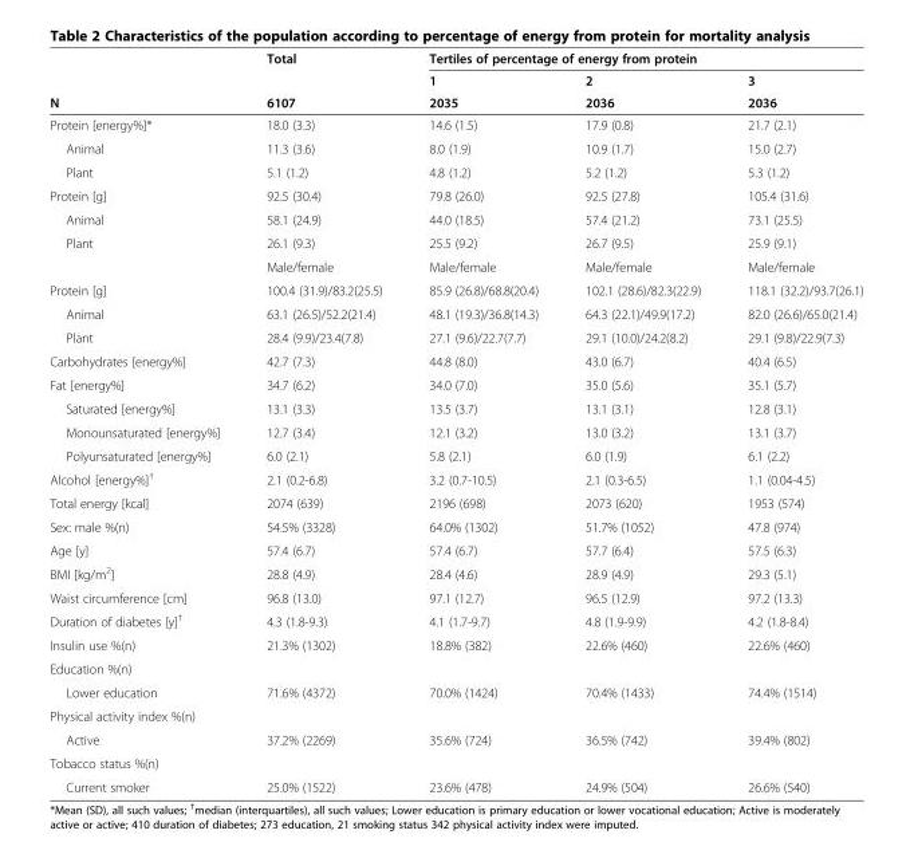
<table><thead><tr><td rowspan="3">N</td><td rowspan="3">Total 6107</td><td colspan="3">Tertiles of percentage of energy from protein</td></tr><tr><td rowspan="2">1 2035</td><td rowspan="2">2 2036</td><td rowspan="2">3 2036</td></tr><tr></tr></thead><tbody><tr><td>Protein [energy%]*</td><td>18.0 (3.3)</td><td>14.6 (1.5)</td><td>17.9 (0.8)</td><td>21.7 (2.1)</td></tr><tr><td>Animal</td><td>11.3 (3.6)</td><td>8.0 (1.9)</td><td>10.9 (1.7)</td><td>15.0 (2.7)</td></tr><tr><td>Plant</td><td>5.1 (1.2)</td><td>4.8 (1.2)</td><td>5.2 (1.2)</td><td>5.3 (1.2)</td></tr><tr><td>Protein [g]</td><td>92.5 (30.4)</td><td>79.8 (26.0)</td><td>92.5 (27.8)</td><td>105.4 (31.6)</td></tr><tr><td>Animal</td><td>58.1 (24.9)</td><td>44.0 (18.5)</td><td>57.4 (21.2)</td><td>73.1 (25.5)</td></tr><tr><td rowspan="2">Plant</td><td>26.1 (9.3)</td><td>25.5 (9.2)</td><td>26.7 (9.5)</td><td>25.9 (9.1)</td></tr><tr><td>Male/female</td><td>Male/female</td><td>Male/female</td><td>Male/female</td></tr><tr><td>Protein [g]</td><td>100.4 (31.9)/83.2(25.5)</td><td>85.9 (26.8)/68.8(20.4)</td><td>102.1 (28.6)/82.3(22.9)</td><td>118.1 (32.2)/93.7(26.1)</td></tr><tr><td>Animal</td><td>63.1 (26.5)/52.2(21.4)</td><td>48.1 (19.3)/36.8(14.3)</td><td>64.3 (22.1)/49.9(17.2)</td><td>82.0 (26.6)/65.0(21.4)</td></tr><tr><td>Plant</td><td>28.4 (9.9)/23.4(7.8)</td><td>27.1 (9.6)/22.7(7.7)</td><td>29.1 (10.0)/24.2(8.2)</td><td>29.1 (9.8)/22.9(7.3)</td></tr><tr><td>Carbohydrates [energy%]</td><td>42.7 (7.3)</td><td>44.8 (8.0)</td><td>43.0 (6.7)</td><td>40.4 (6.5)</td></tr><tr><td>Fat [energy%]</td><td>34.7 (6.2)</td><td>34.0 (7.0)</td><td>35.0 (5.6)</td><td>35.1 (5.7)</td></tr><tr><td>Saturated [energy%]</td><td>13.1 (3.3)</td><td>13.5 (3.7)</td><td>13.1 (3.1)</td><td>12.8 (3.1)</td></tr><tr><td>Monounsaturated [energy%]</td><td>12.7 (3.4)</td><td>12.1 (3.2)</td><td>13.0 (3.2)</td><td>13.1 (3.7)</td></tr><tr><td>Polyunsaturated [energy%]</td><td>6.0 (2.1)</td><td>5.8 (2.1)</td><td>6.0 (1.9)</td><td>6.1 (2.2)</td></tr><tr><td>Alcohol [energy%]<sup>†</sup></td><td>2.1 (0.2-6.8)</td><td>3.2 (0.7-10.5)</td><td>2.1 (0.3-6.5)</td><td>1.1 (0.04-4.5)</td></tr><tr><td>Total energy [kcal]</td><td>2074 (639)</td><td>2196 (698)</td><td>2073 (620)</td><td>1953 (574)</td></tr><tr><td>Sex: male %(n)</td><td>54.5% (3328)</td><td>64.0% (1302)</td><td>51.7% (1052)</td><td>47.8 (974)</td></tr><tr><td>Age [y]</td><td>57.4 (6.7)</td><td>57.4 (6.7)</td><td>57.7 (6.4)</td><td>57.5 (6.3)</td></tr><tr><td>BMI [kg/m<sup>2</sup>]</td><td>28.8 (4.9)</td><td>28.4 (4.6)</td><td>28.9 (4.9)</td><td>29.3 (5.1)</td></tr><tr><td>Waist circumference [cm]</td><td>96.8 (13.0)</td><td>97.1 (12.7)</td><td>96.5 (12.9)</td><td>97.2 (13.3)</td></tr><tr><td>Duration of diabetes [y]<sup>†</sup></td><td>4.3 (1.8-9.3)</td><td>4.1 (1.7-9.7)</td><td>4.8 (1.9-9.9)</td><td>4.2 (1.8-8.4)</td></tr><tr><td>Insulin use %(n)</td><td>21.3% (1302)</td><td>18.8% (382)</td><td>22.6% (460)</td><td>22.6% (460)</td></tr><tr><td colspan="5">Education %(n)</td></tr><tr><td>Lower education</td><td>71.6% (4372)</td><td>70.0% (1424)</td><td>70.4% (1433)</td><td>74.4% (1514)</td></tr><tr><td colspan="5">Physical activity index %(n)</td></tr><tr><td>Active</td><td>37.2% (2269)</td><td>35.6% (724)</td><td>36.5% (742)</td><td>39.4% (802)</td></tr><tr><td colspan="5">Tobacco status %(n)</td></tr><tr><td>Current smoker</td><td>25.0% (1522)</td><td>23.6% (478)</td><td>24.9% (504)</td><td>26.6% (540)</td></tr></tbody></table>